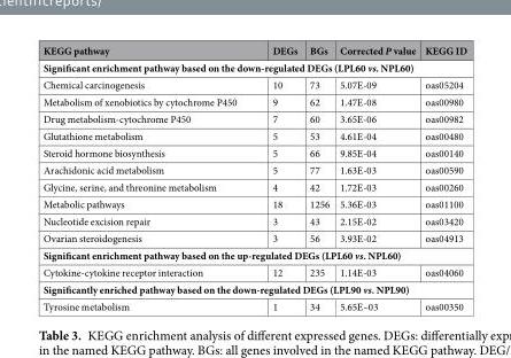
<table><thead><tr><td>KEGG pathway</td><td>DEGs</td><td>BGs</td><td>Corrected P value</td><td>KEGG ID</td></tr></thead><tbody><tr><td colspan="5">Significant enrichment pathway based on the down-regulated DEGs (LPL60 vs. NPL60)</td></tr><tr><td>Chemical carcinogenesis</td><td>10</td><td>73</td><td>5.07E-09</td><td>oas05204</td></tr><tr><td>Metabolism of xenobiotics by cytochrome P450</td><td>9</td><td>62</td><td>1.47E-08</td><td>oas00980</td></tr><tr><td>Drug metabolism-cytochrome P450</td><td>7</td><td>60</td><td>3.65E-06</td><td>oas00982</td></tr><tr><td>Glutathione metabolism</td><td>5</td><td>53</td><td>4.61E-04</td><td>oas00480</td></tr><tr><td>Steroid hormone biosynthesis</td><td>5</td><td>66</td><td>9.85E-04</td><td>oas00140</td></tr><tr><td>Arachidonic acid metabolism</td><td>5</td><td>77</td><td>1.63E-03</td><td>oas00590</td></tr><tr><td>Glycine, serine, and threonine metabolism</td><td>4</td><td>42</td><td>1.72E-03</td><td>oas00260</td></tr><tr><td>Metabolic pathways</td><td>18</td><td>1256</td><td>5.36E-03</td><td>oas01100</td></tr><tr><td>Nucleotide excision repair</td><td>3</td><td>43</td><td>2.15E-02</td><td>oas03420</td></tr><tr><td>Ovarian steroidogenesis</td><td>3</td><td>56</td><td>3.93E-02</td><td>oas04913</td></tr><tr><td colspan="5">Significant enrichment pathway based on the up-regulated DEGs (LPL60 vs. NPL60)</td></tr><tr><td>Cytokine-cytokine receptor interaction</td><td>12</td><td>235</td><td>1.14E-03</td><td>oas04060</td></tr><tr><td colspan="5">Significantly enriched pathway based on the down-regulated DEGs (LPL90 vs. NPL90)</td></tr><tr><td>Tyrosine metabolism</td><td>1</td><td>34</td><td>5.65E–03</td><td>oas00350</td></tr></tbody></table>